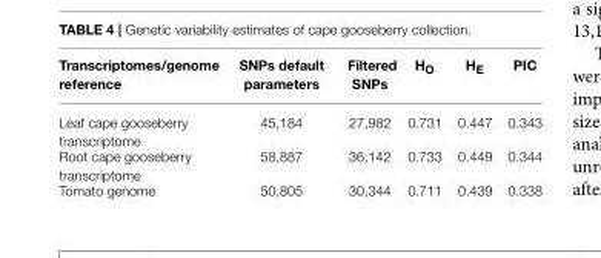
<table><thead><tr><td>Transcriptomes/genome reference</td><td>SNPs default parameters</td><td>Filtered SNPs</td><td>H<sub>O</sub></td><td>H<sub>E</sub></td><td>PIC</td></tr></thead><tbody><tr><td>Leaf cape gooseberry transcriptome</td><td>45,184</td><td>27,982</td><td>0.731</td><td>0.447</td><td>0.343</td></tr><tr><td>Root cape gooseberry transcriptome</td><td>58,887</td><td>36,142</td><td>0.733</td><td>0.449</td><td>0.344</td></tr><tr><td>Tomato genome</td><td>50,805</td><td>30,344</td><td>0.711</td><td>0.439</td><td>0.338</td></tr></tbody></table>